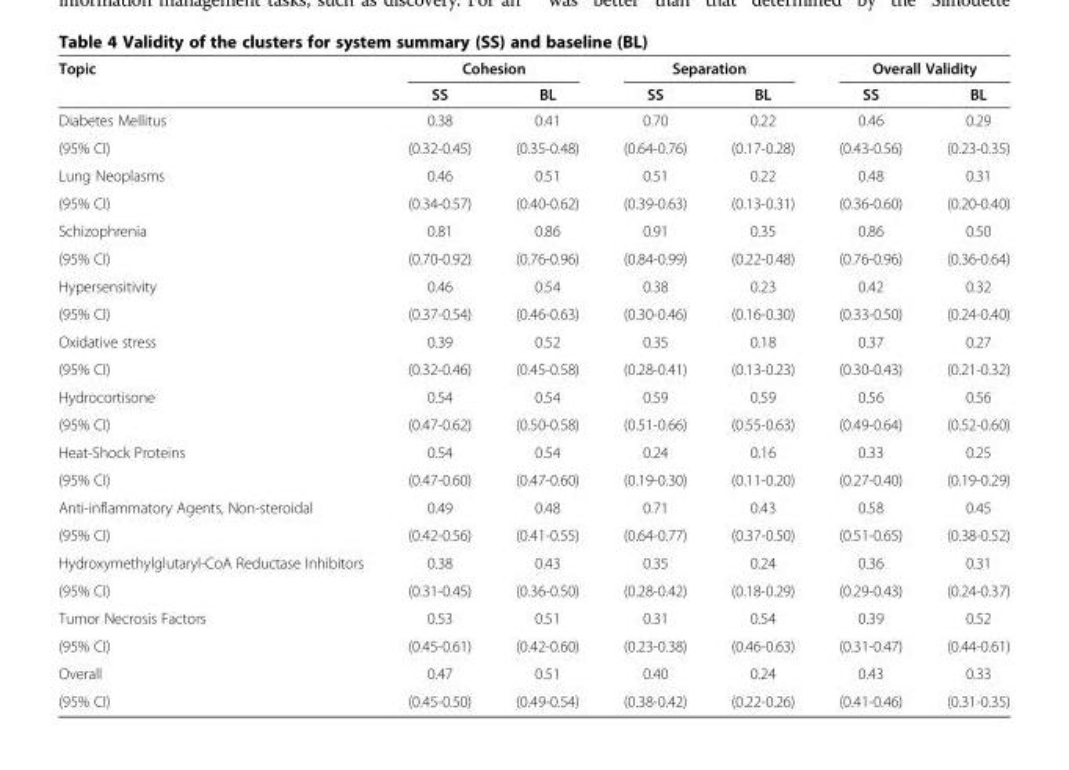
<table><thead><tr><td rowspan="2">Topic</td><td colspan="2">Cohesion</td><td colspan="2">Separation</td><td colspan="2">Overall Validity</td></tr><tr><td>SS</td><td>BL</td><td>SS</td><td>BL</td><td>SS</td><td>BL</td></tr></thead><tbody><tr><td>Diabetes Mellitus</td><td>0.38</td><td>0.41</td><td>0.70</td><td>0.22</td><td>0.46</td><td>0.29</td></tr><tr><td>(95% CI)</td><td>(0.32-0.45)</td><td>(0.35-0.48)</td><td>(0.64-0.76)</td><td>(0.17-0.28)</td><td>(0.43-0.56)</td><td>(0.23-0.35)</td></tr><tr><td>Lung Neoplasms</td><td>0.46</td><td>0.51</td><td>0.51</td><td>0.22</td><td>0.48</td><td>0.31</td></tr><tr><td>(95% CI)</td><td>(0.34-0.57)</td><td>(0.40-0.62)</td><td>(0.39-0.63)</td><td>(0.13-0.31)</td><td>(0.36-0.60)</td><td>(0.20-0.40)</td></tr><tr><td>Schizophrenia</td><td>0.81</td><td>0.86</td><td>0.91</td><td>0.35</td><td>0.86</td><td>0.50</td></tr><tr><td>(95% CI)</td><td>(0.70-0.92)</td><td>(0.76-0.96)</td><td>(0.84-0.99)</td><td>(0.22-0.48)</td><td>(0.76-0.96)</td><td>(0.36-0.64)</td></tr><tr><td>Hypersensitivity</td><td>0.46</td><td>0.54</td><td>0.38</td><td>0.23</td><td>0.42</td><td>0.32</td></tr><tr><td>(95% CI)</td><td>(0.37-0.54)</td><td>(0.46-0.63)</td><td>(0.30-0.46)</td><td>(0.16-0.30)</td><td>(0.33-0.50)</td><td>(0.24-0.40)</td></tr><tr><td>Oxidative stress</td><td>0.39</td><td>0.52</td><td>0.35</td><td>0.18</td><td>0.37</td><td>0.27</td></tr><tr><td>(95% CI)</td><td>(0.32-0.46)</td><td>(0.45-0.58)</td><td>(0.28-0.41)</td><td>(0.13-0.23)</td><td>(0.30-0.43)</td><td>(0.21-0.32)</td></tr><tr><td>Hydrocortisone</td><td>0.54</td><td>0.54</td><td>0.59</td><td>0.59</td><td>0.56</td><td>0.56</td></tr><tr><td>(95% CI)</td><td>(0.47-0.62)</td><td>(0.50-0.58)</td><td>(0.51-0.66)</td><td>(0.55-0.63)</td><td>(0.49-0.64)</td><td>(0.52-0.60)</td></tr><tr><td>Heat-Shock Proteins</td><td>0.54</td><td>0.54</td><td>0.24</td><td>0.16</td><td>0.33</td><td>0.25</td></tr><tr><td>(95% CI)</td><td>(0.47-0.60)</td><td>(0.47-0.60)</td><td>(0.19-0.30)</td><td>(0.11-0.20)</td><td>(0.27-0.40)</td><td>(0.19-0.29)</td></tr><tr><td>Anti-inflammatory Agents, Non-steroidal</td><td>0.49</td><td>0.48</td><td>0.71</td><td>0.43</td><td>0.58</td><td>0.45</td></tr><tr><td>(95% CI)</td><td>(0.42-0.56)</td><td>(0.41-0.55)</td><td>(0.64-0.77)</td><td>(0.37-0.50)</td><td>(0.51-0.65)</td><td>(0.38-0.52)</td></tr><tr><td>Hydroxymethylglutaryl-CoA Reductase Inhibitors</td><td>0.38</td><td>0.43</td><td>0.35</td><td>0.24</td><td>0.36</td><td>0.31</td></tr><tr><td>(95% CI)</td><td>(0.31-0.45)</td><td>(0.36-0.50)</td><td>(0.28-0.42)</td><td>(0.18-0.29)</td><td>(0.29-0.43)</td><td>(0.24-0.37)</td></tr><tr><td>Tumor Necrosis Factors</td><td>0.53</td><td>0.51</td><td>0.31</td><td>0.54</td><td>0.39</td><td>0.52</td></tr><tr><td>(95% CI)</td><td>(0.45-0.61)</td><td>(0.42-0.60)</td><td>(0.23-0.38)</td><td>(0.46-0.63)</td><td>(0.31-0.47)</td><td>(0.44-0.61)</td></tr><tr><td>Overall</td><td>0.47</td><td>0.51</td><td>0.40</td><td>0.24</td><td>0.43</td><td>0.33</td></tr><tr><td>(95% CI)</td><td>(0.45-0.50)</td><td>(0.49-0.54)</td><td>(0.38-0.42)</td><td>(0.22-0.26)</td><td>(0.41-0.46)</td><td>(0.31-0.35)</td></tr></tbody></table>